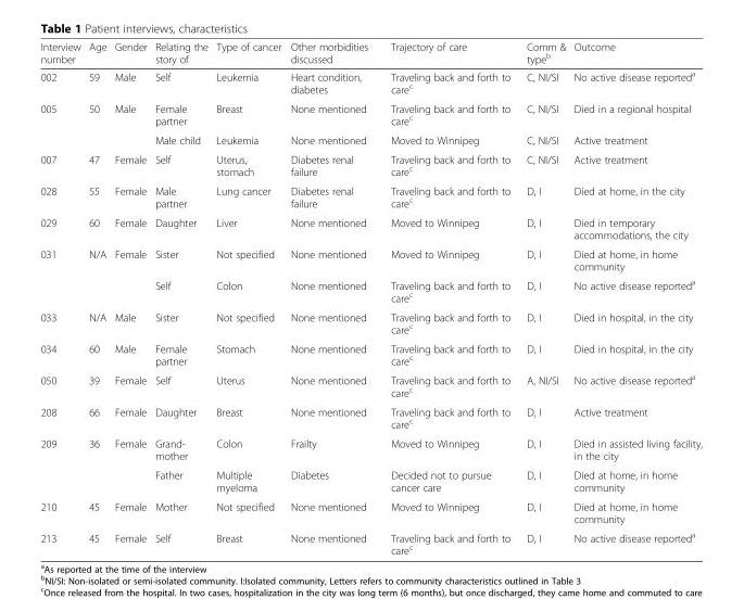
<table><thead><tr><td>Interview number</td><td>Age</td><td>Gender</td><td>Relating the story of</td><td>Type of cancer</td><td>Other morbidities discussed</td><td>Trajectory of care</td><td>Comm &amp; type<sup>b</sup></td><td>Outcome</td></tr></thead><tbody><tr><td>002</td><td>59</td><td>Male</td><td>Self</td><td>Leukemia</td><td>Heart condition, diabetes</td><td>Traveling back and forth to care<sup>c</sup></td><td>C, NI/SI</td><td>No active disease reported<sup>a</sup></td></tr><tr><td rowspan="2">005</td><td rowspan="2">50</td><td rowspan="2">Male</td><td>Female partner</td><td>Breast</td><td>None mentioned</td><td>Traveling back and forth to care<sup>c</sup></td><td>C, NI/SI</td><td>Died in a regional hospital</td></tr><tr><td>Male child</td><td>Leukemia</td><td>None mentioned</td><td>Moved to Winnipeg</td><td>C, NI/SI</td><td>Active treatment</td></tr><tr><td>007</td><td>47</td><td>Female</td><td>Self</td><td>Uterus, stomach</td><td>Diabetes renal failure</td><td>Traveling back and forth to care<sup>c</sup></td><td>C, NI/SI</td><td>Active treatment</td></tr><tr><td>028</td><td>55</td><td>Female</td><td>Male partner</td><td>Lung cancer</td><td>Diabetes renal failure</td><td>Traveling back and forth to care<sup>c</sup></td><td>D, I</td><td>Died at home, in the city</td></tr><tr><td>029</td><td>60</td><td>Female</td><td>Daughter</td><td>Liver</td><td>None mentioned</td><td>Moved to Winnipeg</td><td>D, I</td><td>Died in temporary accommodations, the city</td></tr><tr><td rowspan="2">031</td><td rowspan="2">N/A</td><td rowspan="2">Female</td><td>Sister</td><td>Not specified</td><td>None mentioned</td><td>Moved to Winnipeg</td><td>D, I</td><td>Died at home, in home community</td></tr><tr><td>Self</td><td>Colon</td><td>None mentioned</td><td>Traveling back and forth to care<sup>c</sup></td><td>D, I</td><td>No active disease reported<sup>a</sup></td></tr><tr><td>033</td><td>N/A</td><td>Male</td><td>Sister</td><td>Not specified</td><td>None mentioned</td><td>Traveling back and forth to care<sup>c</sup></td><td>D, I</td><td>Died in hospital, in the city</td></tr><tr><td>034</td><td>60</td><td>Male</td><td>Female partner</td><td>Stomach</td><td>None mentioned</td><td>Traveling back and forth to care<sup>c</sup></td><td>D, I</td><td>Died in hospital, in the city</td></tr><tr><td>050</td><td>39</td><td>Female</td><td>Self</td><td>Uterus</td><td>None mentioned</td><td>Traveling back and forth to care<sup>c</sup></td><td>A, NI/SI</td><td>No active disease reported<sup>a</sup></td></tr><tr><td>208</td><td>66</td><td>Female</td><td>Daughter</td><td>Breast</td><td>None mentioned</td><td>Traveling back and forth to care<sup>c</sup></td><td>D, I</td><td>Active treatment</td></tr><tr><td rowspan="2">209</td><td rowspan="2">36</td><td rowspan="2">Female</td><td>Grand- mother</td><td>Colon</td><td>Frailty</td><td>Moved to Winnipeg</td><td>D, I</td><td>Died in assisted living facility, in the city</td></tr><tr><td>Father</td><td>Multiple myeloma</td><td>Diabetes</td><td>Decided not to pursue cancer care</td><td>D, I</td><td>Died at home, in home community</td></tr><tr><td>210</td><td>45</td><td>Female</td><td>Mother</td><td>Not specified</td><td>None mentioned</td><td>Moved to Winnipeg</td><td>D, I</td><td>Died at home, in home community</td></tr><tr><td>213</td><td>45</td><td>Female</td><td>Self</td><td>Breast</td><td>None mentioned</td><td>Traveling back and forth to care<sup>c</sup></td><td>D, I</td><td>No active disease reported<sup>a</sup></td></tr></tbody></table>